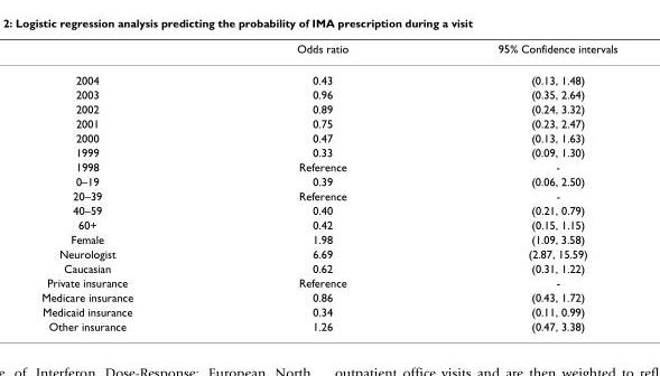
<table><thead><tr><td></td><td>Odds ratio</td><td>95% Confidence intervals</td></tr></thead><tbody><tr><td>2004</td><td>0.43</td><td>(0.13, 1.48)</td></tr><tr><td>2003</td><td>0.96</td><td>(0.35, 2.64)</td></tr><tr><td>2002</td><td>0.89</td><td>(0.24, 3.32)</td></tr><tr><td>2001</td><td>0.75</td><td>(0.23, 2.47)</td></tr><tr><td>2000</td><td>0.47</td><td>(0.13, 1.63)</td></tr><tr><td>1999</td><td>0.33</td><td>(0.09, 1.30)</td></tr><tr><td>1998</td><td>Reference</td><td>-</td></tr><tr><td>0–19</td><td>0.39</td><td>(0.06, 2.50)</td></tr><tr><td>20–39</td><td>Reference</td><td>-</td></tr><tr><td>40–59</td><td>0.40</td><td>(0.21, 0.79)</td></tr><tr><td>60+</td><td>0.42</td><td>(0.15, 1.15)</td></tr><tr><td>Female</td><td>1.98</td><td>(1.09, 3.58)</td></tr><tr><td>Neurologist</td><td>6.69</td><td>(2.87, 15.59)</td></tr><tr><td>Caucasian</td><td>0.62</td><td>(0.31, 1.22)</td></tr><tr><td>Private insurance</td><td>Reference</td><td>-</td></tr><tr><td>Medicare insurance</td><td>0.86</td><td>(0.43, 1.72)</td></tr><tr><td>Medicaid insurance</td><td>0.34</td><td>(0.11, 0.99)</td></tr><tr><td>Other insurance</td><td>1.26</td><td>(0.47, 3.38)</td></tr></tbody></table>